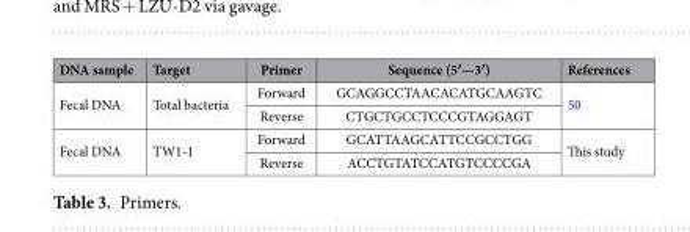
<table><thead><tr><td>DNA sample</td><td>Target</td><td>Primer</td><td>Sequence (5′—3′)</td><td>References</td></tr></thead><tbody><tr><td rowspan="2">Fecal DNA</td><td rowspan="2">Total bacteria</td><td>Forward</td><td>GCAGGCCTAACACATGCAAGTC</td><td rowspan="2">50</td></tr><tr><td>Reverse</td><td>CTGCTGCCTCCCGTAGGAGT</td></tr><tr><td rowspan="2">Fecal DNA</td><td rowspan="2">TW1-1</td><td>Forward</td><td>GCATTAAGCATTCCGCCTGG</td><td rowspan="2">This study</td></tr><tr><td>Reverse</td><td>ACCTGTATCCATGTCCCCGA</td></tr></tbody></table>